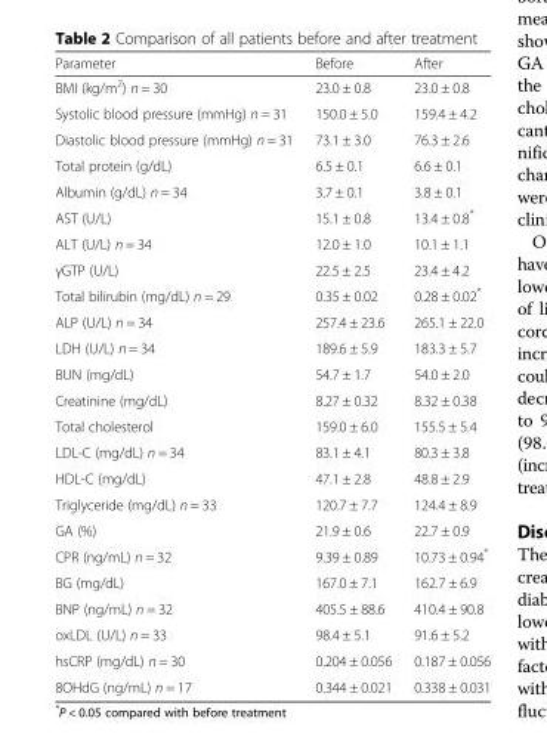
<table><thead><tr><td>Parameter</td><td>Before</td><td>After</td></tr></thead><tbody><tr><td>BMI (kg/m<sup>2</sup>) n = 30</td><td>23.0 ± 0.8</td><td>23.0 ± 0.8</td></tr><tr><td>Systolic blood pressure (mmHg) n = 31</td><td>150.0 ± 5.0</td><td>159.4 ± 4.2</td></tr><tr><td>Diastolic blood pressure (mmHg) n = 31</td><td>73.1 ± 3.0</td><td>76.3 ± 2.6</td></tr><tr><td>Total protein (g/dL)</td><td>6.5 ± 0.1</td><td>6.6 ± 0.1</td></tr><tr><td>Albumin (g/dL) n = 34</td><td>3.7 ± 0.1</td><td>3.8 ± 0.1</td></tr><tr><td>AST (U/L)</td><td>15.1 ± 0.8</td><td>13.4 ± 0.8*</td></tr><tr><td>ALT (U/L) n = 34</td><td>12.0 ± 1.0</td><td>10.1 ± 1.1</td></tr><tr><td>γGTP (U/L)</td><td>22.5 ± 2.5</td><td>23.4 ± 4.2</td></tr><tr><td>Total bilirubin (mg/dL) n = 29</td><td>0.35 ± 0.02</td><td>0.28 ± 0.02*</td></tr><tr><td>ALP (U/L) n = 34</td><td>257.4 ± 23.6</td><td>265.1 ± 22.0</td></tr><tr><td>LDH (U/L) n = 34</td><td>189.6 ± 5.9</td><td>183.3 ± 5.7</td></tr><tr><td>BUN (mg/dL)</td><td>54.7 ± 1.7</td><td>54.0 ± 2.0</td></tr><tr><td>Creatinine (mg/dL)</td><td>8.27 ± 0.32</td><td>8.32 ± 0.38</td></tr><tr><td>Total cholesterol</td><td>159.0 ± 6.0</td><td>155.5 ± 5.4</td></tr><tr><td>LDL-C (mg/dL) n = 34</td><td>83.1 ± 4.1</td><td>80.3 ± 3.8</td></tr><tr><td>HDL-C (mg/dL)</td><td>47.1 ± 2.8</td><td>48.8 ± 2.9</td></tr><tr><td>Triglyceride (mg/dL) n = 33</td><td>120.7 ± 7.7</td><td>124.4 ± 8.9</td></tr><tr><td>GA (%)</td><td>21.9 ± 0.6</td><td>22.7 ± 0.9</td></tr><tr><td>CPR (ng/mL) n = 32</td><td>9.39 ± 0.89</td><td>10.73 ± 0.94*</td></tr><tr><td>BG (mg/dL)</td><td>167.0 ± 7.1</td><td>162.7 ± 6.9</td></tr><tr><td>BNP (ng/mL) n = 32</td><td>405.5 ± 88.6</td><td>410.4 ± 90.8</td></tr><tr><td>oxLDL (U/L) n = 33</td><td>98.4 ± 5.1</td><td>91.6 ± 5.2</td></tr><tr><td>hsCRP (mg/dL) n = 30</td><td>0.204 ± 0.056</td><td>0.187 ± 0.056</td></tr><tr><td>8OHdG (ng/mL) n = 17</td><td>0.344 ± 0.021</td><td>0.338 ± 0.031</td></tr></tbody></table>